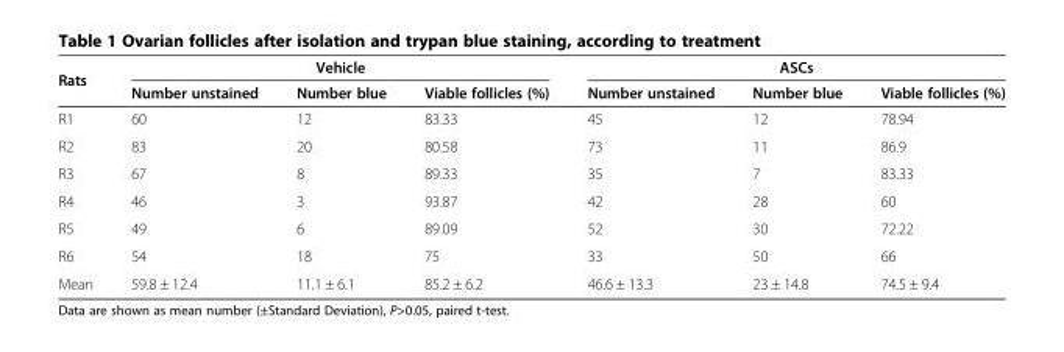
<table><thead><tr><td rowspan="2">Rats</td><td colspan="3">Vehicle</td><td colspan="3">ASCs</td></tr><tr><td>Number unstained</td><td>Number blue</td><td>Viable follicles (%)</td><td>Number unstained</td><td>Number blue</td><td>Viable follicles (%)</td></tr></thead><tbody><tr><td>R1</td><td>60</td><td>12</td><td>83.33</td><td>45</td><td>12</td><td>78.94</td></tr><tr><td>R2</td><td>83</td><td>20</td><td>80.58</td><td>73</td><td>11</td><td>86.9</td></tr><tr><td>R3</td><td>67</td><td>8</td><td>89.33</td><td>35</td><td>7</td><td>83.33</td></tr><tr><td>R4</td><td>46</td><td>3</td><td>93.87</td><td>42</td><td>28</td><td>60</td></tr><tr><td>R5</td><td>49</td><td>6</td><td>89.09</td><td>52</td><td>30</td><td>72.22</td></tr><tr><td>R6</td><td>54</td><td>18</td><td>75</td><td>33</td><td>50</td><td>66</td></tr><tr><td>Mean</td><td>59.8 ± 12.4</td><td>11.1 ± 6.1</td><td>85.2 ± 6.2</td><td>46.6 ± 13.3</td><td>23 ± 14.8</td><td>74.5 ± 9.4</td></tr></tbody></table>